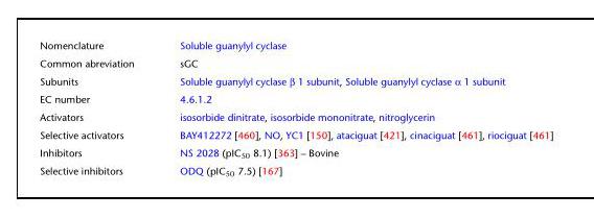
<table><tbody><tr><td>Nomenclature</td><td>Soluble guanylyl cyclase</td></tr><tr><td>Common abreviation</td><td>sGC</td></tr><tr><td>Subunits</td><td>Soluble guanylyl cyclase β 1 subunit, Soluble guanylyl cyclase α 1 subunit</td></tr><tr><td>EC number</td><td>4.6.1.2</td></tr><tr><td>Activators</td><td>isosorbide dinitrate, isosorbide mononitrate, nitroglycerin</td></tr><tr><td>Selective activators</td><td>BAY412272 [460], NO, YC1 [150], ataciguat [421], cinaciguat [461], riociguat [461]</td></tr><tr><td>Inhibitors</td><td>NS 2028 (pIC<sub>50</sub> 8.1) [363] – Bovine</td></tr><tr><td>Selective inhibitors</td><td>ODQ (pIC<sub>50</sub> 7.5) [167]</td></tr></tbody></table>